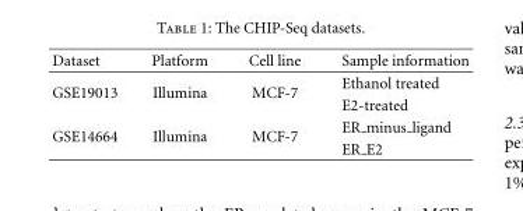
<table><thead><tr><td>Dataset</td><td>Platform</td><td>Cell line</td><td>Sample information</td></tr></thead><tbody><tr><td rowspan="2">GSE19013</td><td rowspan="2">Illumina</td><td rowspan="2">MCF-7</td><td>Ethanol treated</td></tr><tr><td>E2-treated</td></tr><tr><td rowspan="2">GSE14664</td><td rowspan="2">Illumina</td><td rowspan="2">MCF-7</td><td>ER <sub>minus</sub> ligand</td></tr><tr><td>ER E2</td></tr></tbody></table>